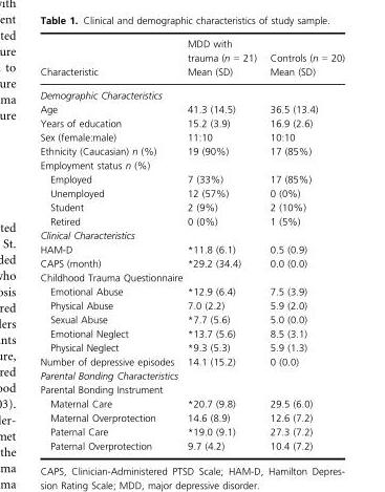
<table><thead><tr><td rowspan="2">Characteristic</td><td rowspan="2">MDD with trauma (n = 21) Mean (SD)</td><td rowspan="2">Controls (n = 20) Mean (SD)</td></tr><tr></tr></thead><tbody><tr><td colspan="3">Demographic Characteristics</td></tr><tr><td>Age</td><td>41.3 (14.5)</td><td>36.5 (13.4)</td></tr><tr><td>Years of education</td><td>15.2 (3.9)</td><td>16.9 (2.6)</td></tr><tr><td>Sex (female:male)</td><td>11:10</td><td>10:10</td></tr><tr><td>Ethnicity (Caucasian) n (%)</td><td>19 (90%)</td><td>17 (85%)</td></tr><tr><td colspan="3">Employment status n (%)</td></tr><tr><td>Employed</td><td>7 (33%)</td><td>17 (85%)</td></tr><tr><td>Unemployed</td><td>12 (57%)</td><td>0 (0%)</td></tr><tr><td>Student</td><td>2 (9%)</td><td>2 (10%)</td></tr><tr><td>Retired</td><td>0 (0%)</td><td>1 (5%)</td></tr><tr><td colspan="3">Clinical Characteristics</td></tr><tr><td>HAM-D</td><td>*11.8 (6.1)</td><td>0.5 (0.9)</td></tr><tr><td>CAPS (month)</td><td>*29.2 (34.4)</td><td>0.0 (0.0)</td></tr><tr><td colspan="3">Childhood Trauma Questionnaire</td></tr><tr><td>Emotional Abuse</td><td>*12.9 (6.4)</td><td>7.5 (3.9)</td></tr><tr><td>Physical Abuse</td><td>7.0 (2.2)</td><td>5.9 (2.0)</td></tr><tr><td>Sexual Abuse</td><td>*7.7 (5.6)</td><td>5.0 (0.0)</td></tr><tr><td>Emotional Neglect</td><td>*13.7 (5.6)</td><td>8.5 (3.1)</td></tr><tr><td>Physical Neglect</td><td>*9.3 (5.3)</td><td>5.9 (1.3)</td></tr><tr><td>Number of depressive episodes</td><td>14.1 (15.2)</td><td>0 (0.0)</td></tr><tr><td colspan="3">Parental Bonding Characteristics</td></tr><tr><td colspan="3">Parental Bonding Instrument</td></tr><tr><td>Maternal Care</td><td>*20.7 (9.8)</td><td>29.5 (6.0)</td></tr><tr><td>Maternal Overprotection</td><td>14.6 (8.9)</td><td>12.6 (7.2)</td></tr><tr><td>Paternal Care</td><td>*19.0 (9.1)</td><td>27.3 (7.2)</td></tr><tr><td>Paternal Overprotection</td><td>9.7 (4.2)</td><td>10.4 (7.2)</td></tr></tbody></table>